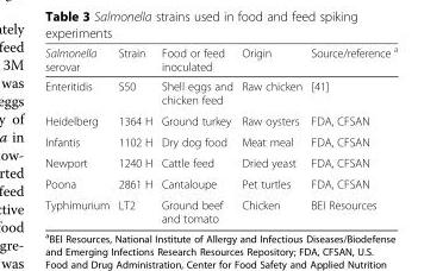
<table><thead><tr><td>Salmonella serovar</td><td>Strain</td><td>Food or feed inoculated</td><td>Origin</td><td>Source/reference <sup>a</sup></td></tr></thead><tbody><tr><td>Enteritidis</td><td>S50</td><td>Shell eggs and chicken feed</td><td>Raw chicken</td><td>[41]</td></tr><tr><td>Heidelberg</td><td>1364 H</td><td>Ground turkey</td><td>Raw oysters</td><td>FDA, CFSAN</td></tr><tr><td>Infantis</td><td>1102 H</td><td>Dry dog food</td><td>Meat meal</td><td>FDA, CFSAN</td></tr><tr><td>Newport</td><td>1240 H</td><td>Cattle feed</td><td>Dried yeast</td><td>FDA, CFSAN</td></tr><tr><td>Poona</td><td>2861 H</td><td>Cantaloupe</td><td>Pet turtles</td><td>FDA, CFSAN</td></tr><tr><td>Typhimurium</td><td>LT2</td><td>Ground beef and tomato</td><td>Chicken</td><td>BEI Resources</td></tr></tbody></table>